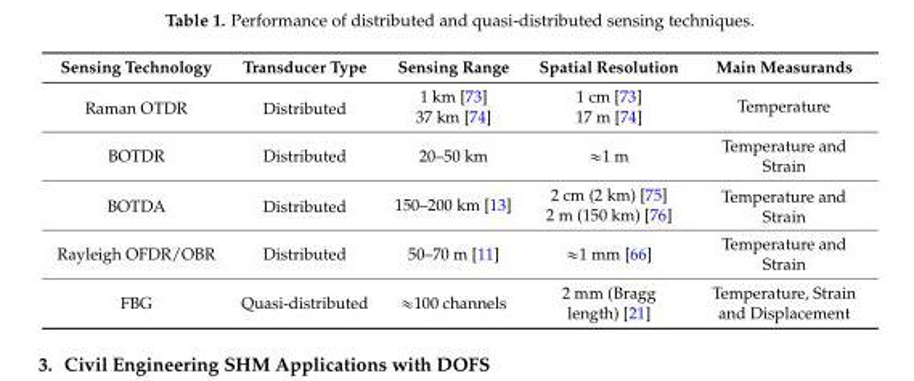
<table><thead><tr><td>Sensing Technology</td><td>Transducer Type</td><td>Sensing Range</td><td>Spatial Resolution</td><td>Main Measurands</td></tr></thead><tbody><tr><td rowspan="2">Raman OTDR</td><td rowspan="2">Distributed</td><td>1 km [73]</td><td>1 cm [73]</td><td rowspan="2">Temperature</td></tr><tr><td>37 km [74]</td><td>17 m [74]</td></tr><tr><td>BOTDR</td><td>Distributed</td><td>20–50 km</td><td>≈1 m</td><td>Temperature and Strain</td></tr><tr><td rowspan="2">BOTDA</td><td rowspan="2">Distributed</td><td rowspan="2">150–200 km [13]</td><td>2 cm (2 km) [75]</td><td rowspan="2">Temperature and Strain</td></tr><tr><td>2 m (150 km) [76]</td></tr><tr><td>Rayleigh OFDR/OBR</td><td>Distributed</td><td>50–70 m [11]</td><td>≈1 mm [66]</td><td>Temperature and Strain</td></tr><tr><td>FBG</td><td>Quasi-distributed</td><td>≈100 channels</td><td>2 mm (Bragg length) [21]</td><td>Temperature, Strain and Displacement</td></tr></tbody></table>